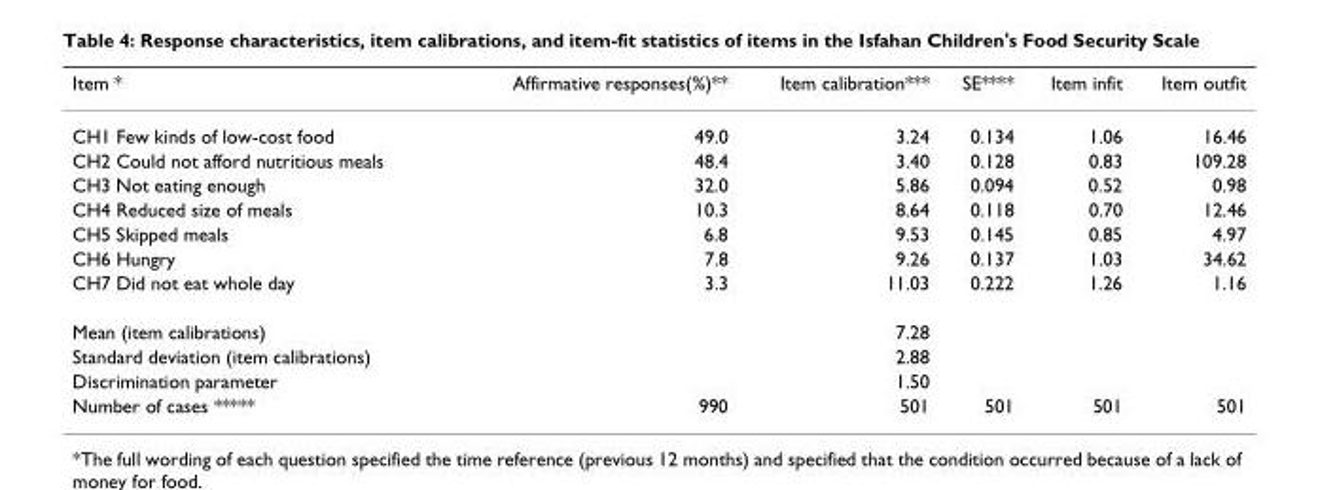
<table><thead><tr><td>Item *</td><td>Affirmative responses(%)**</td><td>Item calibration***</td><td>SE****</td><td>Item infit</td><td>Item outfit</td></tr></thead><tbody><tr><td>CH1 Few kinds of low-cost food</td><td>49.0</td><td>3.24</td><td>0.134</td><td>1.06</td><td>16.46</td></tr><tr><td>CH2 Could not afford nutritious meals</td><td>48.4</td><td>3.40</td><td>0.128</td><td>0.83</td><td>109.28</td></tr><tr><td>CH3 Not eating enough</td><td>32.0</td><td>5.86</td><td>0.094</td><td>0.52</td><td>0.98</td></tr><tr><td>CH4 Reduced size of meals</td><td>10.3</td><td>8.64</td><td>0.118</td><td>0.70</td><td>12.46</td></tr><tr><td>CH5 Skipped meals</td><td>6.8</td><td>9.53</td><td>0.145</td><td>0.85</td><td>4.97</td></tr><tr><td>CH6 Hungry</td><td>7.8</td><td>9.26</td><td>0.137</td><td>1.03</td><td>34.62</td></tr><tr><td>CH7 Did not eat whole day</td><td>3.3</td><td>11.03</td><td>0.222</td><td>1.26</td><td>1.16</td></tr><tr><td>Mean (item calibrations)</td><td></td><td>7.28</td><td></td><td></td><td></td></tr><tr><td>Standard deviation (item calibrations)</td><td></td><td>2.88</td><td></td><td></td><td></td></tr><tr><td>Discrimination parameter</td><td></td><td>1.50</td><td></td><td></td><td></td></tr><tr><td>Number of cases *****</td><td>990</td><td>501</td><td>501</td><td>501</td><td>501</td></tr></tbody></table>